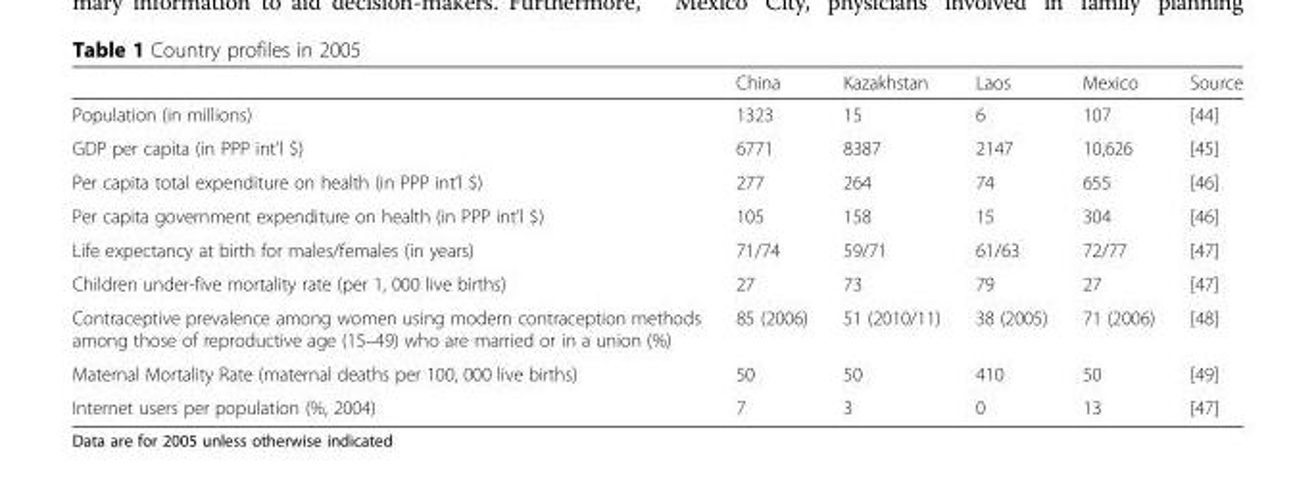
<table><thead><tr><td></td><td>China</td><td>Kazakhstan</td><td>Laos</td><td>Mexico</td><td>Source</td></tr></thead><tbody><tr><td>Population (in millions)</td><td>1323</td><td>15</td><td>6</td><td>107</td><td>[44]</td></tr><tr><td>GDP per capita (in PPP int&#x27;l $)</td><td>6771</td><td>8387</td><td>2147</td><td>10,626</td><td>[45]</td></tr><tr><td>Per capita total expenditure on health (in PPP int’l $)</td><td>277</td><td>264</td><td>74</td><td>655</td><td>[46]</td></tr><tr><td>Per capita government expenditure on health (in PPP int’l $)</td><td>105</td><td>158</td><td>15</td><td>304</td><td>[46]</td></tr><tr><td>Life expectancy at birth for males/females (in years)</td><td>71/74</td><td>59/71</td><td>61/63</td><td>72/77</td><td>[47]</td></tr><tr><td>Children under-five mortality rate (per 1, 000 live births)</td><td>27</td><td>73</td><td>79</td><td>27</td><td>[47]</td></tr><tr><td>Contraceptive prevalence among women using modern contraception methods among those of reproductive age (15–49) who are married or in a union (%)</td><td>85 (2006)</td><td>51 (2010/11)</td><td>38 (2005)</td><td>71 (2006)</td><td>[48]</td></tr><tr><td>Maternal Mortality Rate (maternal deaths per 100, 000 live births)</td><td>50</td><td>50</td><td>410</td><td>50</td><td>[49]</td></tr><tr><td>Internet users per population (%, 2004)</td><td>7</td><td>3</td><td>0</td><td>13</td><td>[47]</td></tr></tbody></table>